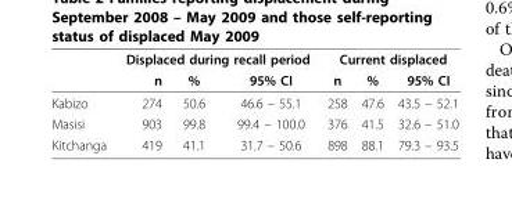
<table><thead><tr><td rowspan="2"></td><td colspan="3">Displaced during recall period</td><td colspan="3">Current displaced</td></tr><tr><td>n</td><td>%</td><td>95% CI</td><td>n</td><td>%</td><td>95% CI</td></tr></thead><tbody><tr><td>Kabizo</td><td>274</td><td>50.6</td><td>46.6 – 55.1</td><td>258</td><td>47.6</td><td>43.5 – 52.1</td></tr><tr><td>Masisi</td><td>903</td><td>99.8</td><td>99.4 – 100.0</td><td>376</td><td>41.5</td><td>32.6 – 51.0</td></tr><tr><td>Kitchanga</td><td>419</td><td>41.1</td><td>31.7 – 50.6</td><td>898</td><td>88.1</td><td>79.3 – 93.5</td></tr></tbody></table>